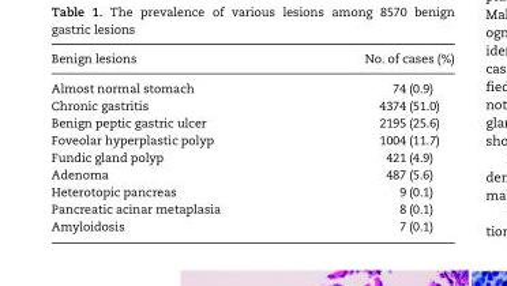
<table><thead><tr><td>Benign lesions</td><td>No. of cases (%)</td></tr></thead><tbody><tr><td>Almost normal stomach</td><td>74 (0.9)</td></tr><tr><td>Chronic gastritis</td><td>4374 (51.0)</td></tr><tr><td>Benign peptic gastric ulcer</td><td>2195 (25.6)</td></tr><tr><td>Foveolar hyperplastic polyp</td><td>1004 (11.7)</td></tr><tr><td>Fundic gland polyp</td><td>421 (4.9)</td></tr><tr><td>Adenoma</td><td>487 (5.6)</td></tr><tr><td>Heterotopic pancreas</td><td>9 (0.1)</td></tr><tr><td>Pancreatic acinar metaplasia</td><td>8 (0.1)</td></tr><tr><td>Amyloidosis</td><td>7 (0.1)</td></tr></tbody></table>